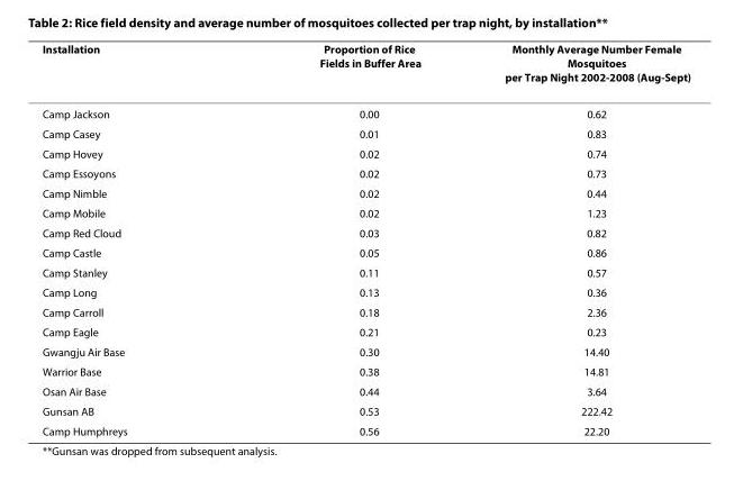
<table><thead><tr><td>Installation</td><td>Proportion of Rice Fields in Buffer Area</td><td>Monthly Average Number Female Mosquitoes per Trap Night 2002-2008 (Aug-Sept)</td></tr></thead><tbody><tr><td>Camp Jackson</td><td>0.00</td><td>0.62</td></tr><tr><td>Camp Casey</td><td>0.01</td><td>0.83</td></tr><tr><td>Camp Hovey</td><td>0.02</td><td>0.74</td></tr><tr><td>Camp Essoyons</td><td>0.02</td><td>0.73</td></tr><tr><td>Camp Nimble</td><td>0.02</td><td>0.44</td></tr><tr><td>Camp Mobile</td><td>0.02</td><td>1.23</td></tr><tr><td>Camp Red Cloud</td><td>0.03</td><td>0.82</td></tr><tr><td>Camp Castle</td><td>0.05</td><td>0.86</td></tr><tr><td>Camp Stanley</td><td>0.11</td><td>0.57</td></tr><tr><td>Camp Long</td><td>0.13</td><td>0.36</td></tr><tr><td>Camp Carroll</td><td>0.18</td><td>2.36</td></tr><tr><td>Camp Eagle</td><td>0.21</td><td>0.23</td></tr><tr><td>Gwangju Air Base</td><td>0.30</td><td>14.40</td></tr><tr><td>Warrior Base</td><td>0.38</td><td>14.81</td></tr><tr><td>Osan Air Base</td><td>0.44</td><td>3.64</td></tr><tr><td>Gunsan AB</td><td>0.53</td><td>222.42</td></tr><tr><td>Camp Humphreys</td><td>0.56</td><td>22.20</td></tr></tbody></table>